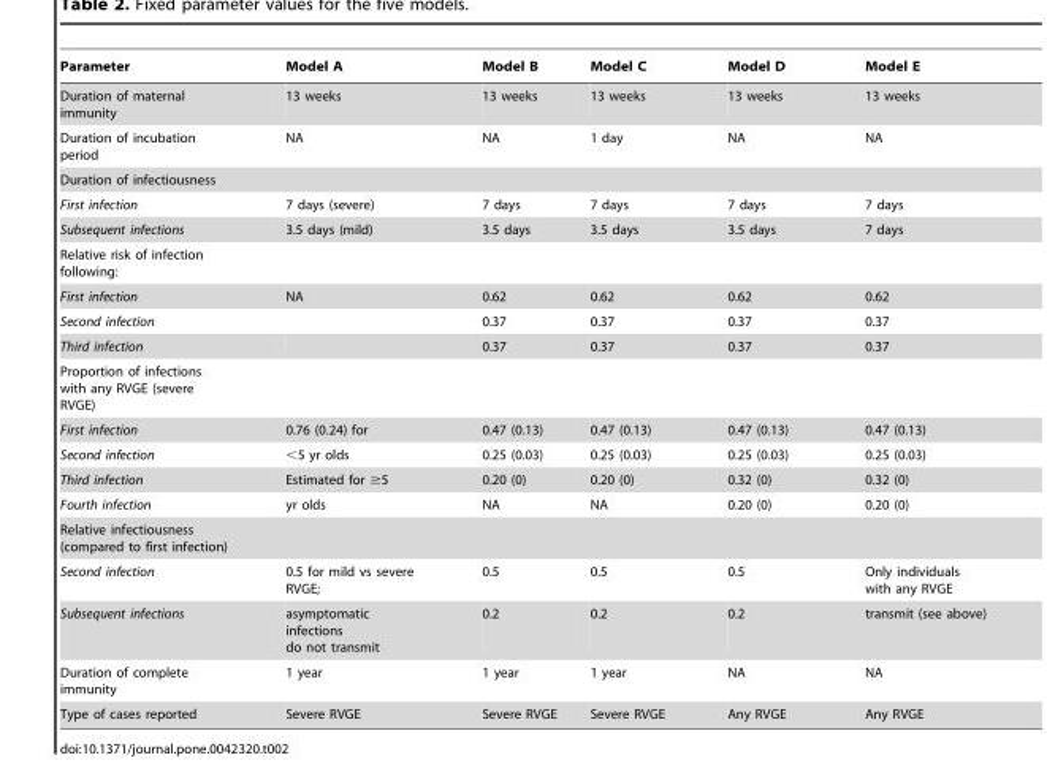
<table><thead><tr><td>Parameter</td><td>Model A</td><td>Model B</td><td>Model C</td><td>Model D</td><td>Model E</td></tr></thead><tbody><tr><td>Duration of maternal immunity</td><td>13 weeks</td><td>13 weeks</td><td>13 weeks</td><td>13 weeks</td><td>13 weeks</td></tr><tr><td>Duration of incubation period</td><td>NA</td><td>NA</td><td>1 day</td><td>NA</td><td>NA</td></tr><tr><td colspan="6">Duration of infectiousness</td></tr><tr><td>First infection</td><td>7 days (severe)</td><td>7 days</td><td>7 days</td><td>7 days</td><td>7 days</td></tr><tr><td>Subsequent infections</td><td>3.5 days (mild)</td><td>3.5 days</td><td>3.5 days</td><td>3.5 days</td><td>7 days</td></tr><tr><td colspan="6">Relative risk of infection following:</td></tr><tr><td>First infection</td><td>NA</td><td>0.62</td><td>0.62</td><td>0.62</td><td>0.62</td></tr><tr><td>Second infection</td><td></td><td>0.37</td><td>0.37</td><td>0.37</td><td>0.37</td></tr><tr><td>Third infection</td><td></td><td>0.37</td><td>0.37</td><td>0.37</td><td>0.37</td></tr><tr><td colspan="6">Proportion of infections with any RVGE (severe RVGE)</td></tr><tr><td>First infection</td><td>0.76 (0.24) for</td><td>0.47 (0.13)</td><td>0.47 (0.13)</td><td>0.47 (0.13)</td><td>0.47 (0.13)</td></tr><tr><td>Second infection</td><td>&lt;5 yr olds</td><td>0.25 (0.03)</td><td>0.25 (0.03)</td><td>0.25 (0.03)</td><td>0.25 (0.03)</td></tr><tr><td>Third infection</td><td>Estimated for ≥5</td><td>0.20 (0)</td><td>0.20 (0)</td><td>0.32 (0)</td><td>0.32 (0)</td></tr><tr><td>Fourth infection</td><td>yr olds</td><td>NA</td><td>NA</td><td>0.20 (0)</td><td>0.20 (0)</td></tr><tr><td colspan="6">Relative infectiousness (compared to first infection)</td></tr><tr><td>Second infection</td><td>0.5 for mild vs severe RVGE;</td><td>0.5</td><td>0.5</td><td>0.5</td><td>Only individuals with any RVGE</td></tr><tr><td>Subsequent infections</td><td>asymptomatic infections do not transmit</td><td>0.2</td><td>0.2</td><td>0.2</td><td>transmit (see above)</td></tr><tr><td>Duration of complete immunity</td><td>1 year</td><td>1 year</td><td>1 year</td><td>NA</td><td>NA</td></tr><tr><td>Type of cases reported</td><td>Severe RVGE</td><td>Severe RVGE</td><td>Severe RVGE</td><td>Any RVGE</td><td>Any RVGE</td></tr></tbody></table>